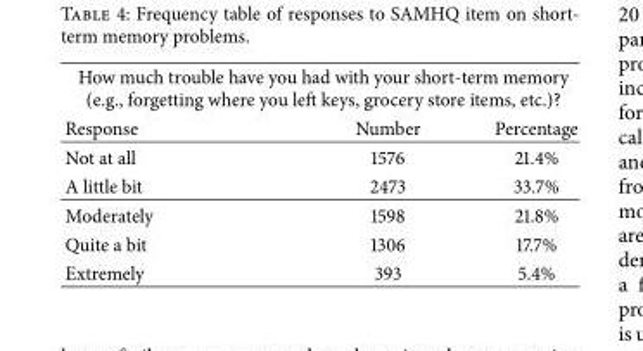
<table><thead><tr><td colspan="3">How much trouble have you had with your short-term memory (e.g., forgetting where you left keys, grocery store items, etc.)?</td></tr><tr><td>Response</td><td>Number</td><td>Percentage</td></tr></thead><tbody><tr><td>Not at all</td><td>1576</td><td>21.4%</td></tr><tr><td>A little bit</td><td>2473</td><td>33.7%</td></tr><tr><td>Moderately</td><td>1598</td><td>21.8%</td></tr><tr><td>Quite a bit</td><td>1306</td><td>17.7%</td></tr><tr><td>Extremely</td><td>393</td><td>5.4%</td></tr></tbody></table>